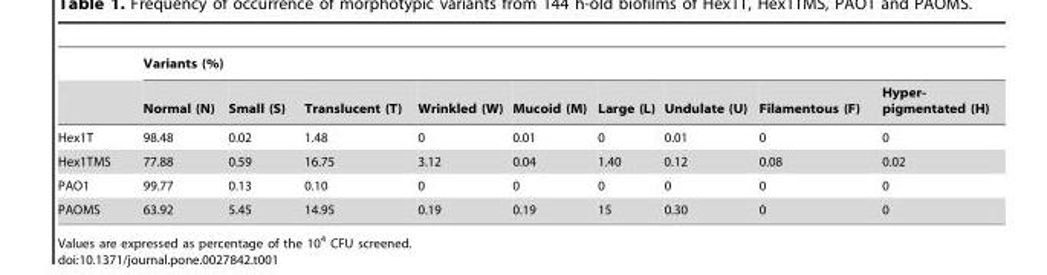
<table><thead><tr><td rowspan="2"></td><td colspan="9">Variants (%)</td></tr><tr><td>Normal (N)</td><td>Small (S)</td><td>Translucent (T)</td><td>Wrinkled (W)</td><td>Mucoid (M)</td><td>Large (L)</td><td>Undulate (U)</td><td>Filamentous (F)</td><td>Hyper- pigmentated (H)</td></tr></thead><tbody><tr><td>Hex1T</td><td>98.48</td><td>0.02</td><td>1.48</td><td>0</td><td>0.01</td><td>0</td><td>0.01</td><td>0</td><td>0</td></tr><tr><td>Hex1TMS</td><td>77.88</td><td>0.59</td><td>16.75</td><td>3.12</td><td>0.04</td><td>1.40</td><td>0.12</td><td>0.08</td><td>0.02</td></tr><tr><td>PAO1</td><td>99.77</td><td>0.13</td><td>0.10</td><td>0</td><td>0</td><td>0</td><td>0</td><td>0</td><td>0</td></tr><tr><td>PAOMS</td><td>63.92</td><td>5.45</td><td>14.95</td><td>0.19</td><td>0.19</td><td>15</td><td>0.30</td><td>0</td><td>0</td></tr></tbody></table>